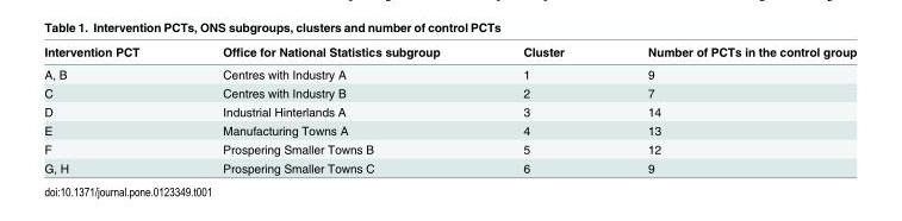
<table><thead><tr><td>Intervention PCT</td><td>Office for National Statistics subgroup</td><td>Cluster</td><td>Number of PCTs in the control group</td></tr></thead><tbody><tr><td>A, B</td><td>Centres with Industry A</td><td>1</td><td>9</td></tr><tr><td>C</td><td>Centres with Industry B</td><td>2</td><td>7</td></tr><tr><td>D</td><td>Industrial Hinterlands A</td><td>3</td><td>14</td></tr><tr><td>E</td><td>Manufacturing Towns A</td><td>4</td><td>13</td></tr><tr><td>F</td><td>Prospering Smaller Towns B</td><td>5</td><td>12</td></tr><tr><td>G, H</td><td>Prospering Smaller Towns C</td><td>6</td><td>9</td></tr></tbody></table>